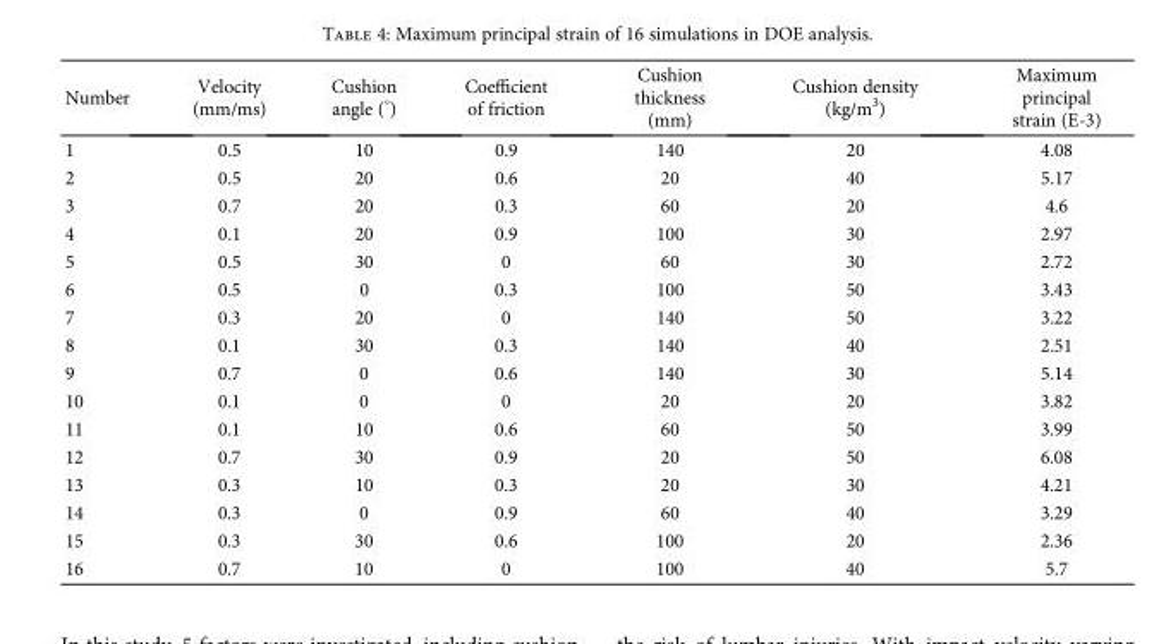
<table><thead><tr><td>Number</td><td>Velocity (mm/ms)</td><td>Cushion angle (°)</td><td>Coefficient of friction</td><td>Cushion thickness (mm)</td><td>Cushion density (kg/m<sup>3</sup>)</td><td>Maximum principal strain (E-3)</td></tr></thead><tbody><tr><td>1</td><td>0.5</td><td>10</td><td>0.9</td><td>140</td><td>20</td><td>4.08</td></tr><tr><td>2</td><td>0.5</td><td>20</td><td>0.6</td><td>20</td><td>40</td><td>5.17</td></tr><tr><td>3</td><td>0.7</td><td>20</td><td>0.3</td><td>60</td><td>20</td><td>4.6</td></tr><tr><td>4</td><td>0.1</td><td>20</td><td>0.9</td><td>100</td><td>30</td><td>2.97</td></tr><tr><td>5</td><td>0.5</td><td>30</td><td>0</td><td>60</td><td>30</td><td>2.72</td></tr><tr><td>6</td><td>0.5</td><td>0</td><td>0.3</td><td>100</td><td>50</td><td>3.43</td></tr><tr><td>7</td><td>0.3</td><td>20</td><td>0</td><td>140</td><td>50</td><td>3.22</td></tr><tr><td>8</td><td>0.1</td><td>30</td><td>0.3</td><td>140</td><td>40</td><td>2.51</td></tr><tr><td>9</td><td>0.7</td><td>0</td><td>0.6</td><td>140</td><td>30</td><td>5.14</td></tr><tr><td>10</td><td>0.1</td><td>0</td><td>0</td><td>20</td><td>20</td><td>3.82</td></tr><tr><td>11</td><td>0.1</td><td>10</td><td>0.6</td><td>60</td><td>50</td><td>3.99</td></tr><tr><td>12</td><td>0.7</td><td>30</td><td>0.9</td><td>20</td><td>50</td><td>6.08</td></tr><tr><td>13</td><td>0.3</td><td>10</td><td>0.3</td><td>20</td><td>30</td><td>4.21</td></tr><tr><td>14</td><td>0.3</td><td>0</td><td>0.9</td><td>60</td><td>40</td><td>3.29</td></tr><tr><td>15</td><td>0.3</td><td>30</td><td>0.6</td><td>100</td><td>20</td><td>2.36</td></tr><tr><td>16</td><td>0.7</td><td>10</td><td>0</td><td>100</td><td>40</td><td>5.7</td></tr></tbody></table>